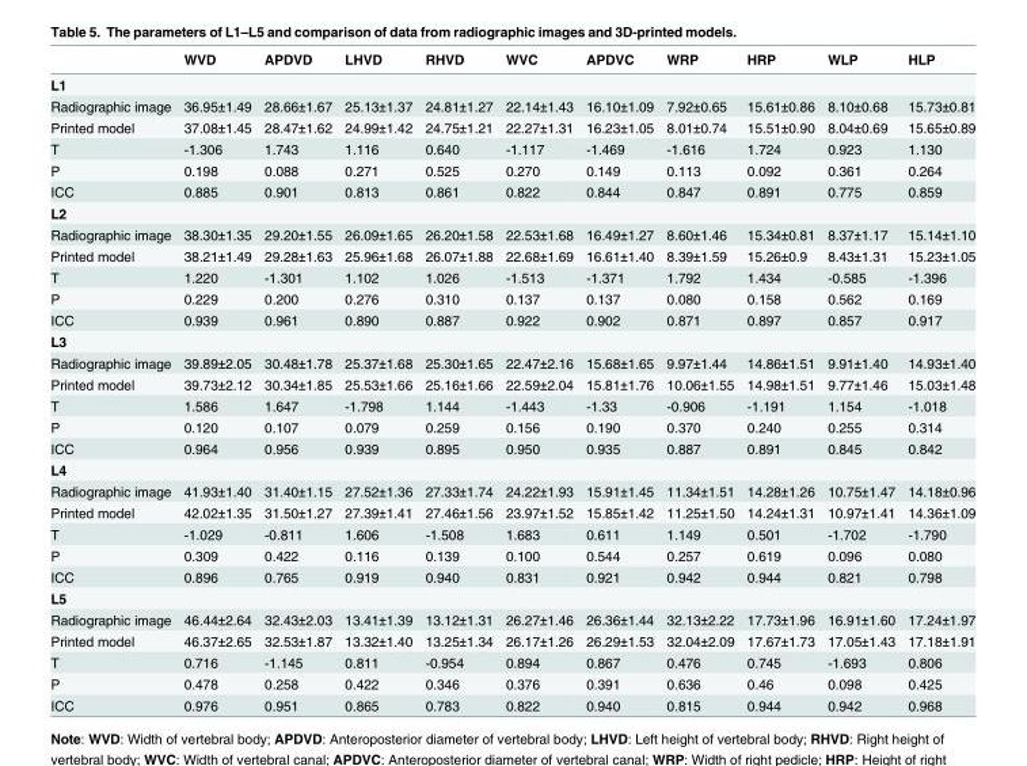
<table><thead><tr><td></td><td>WVD</td><td>APDVD</td><td>LHVD</td><td>RHVD</td><td>WVC</td><td>APDVC</td><td>WRP</td><td>HRP</td><td>WLP</td><td>HLP</td></tr></thead><tbody><tr><td colspan="11">L1</td></tr><tr><td>Radiographic image</td><td>36.95±1.49</td><td>28.66±1.67</td><td>25.13±1.37</td><td>24.81±1.27</td><td>22.14±1.43</td><td>16.10±1.09</td><td>7.92±0.65</td><td>15.61±0.86</td><td>8.10±0.68</td><td>15.73±0.81</td></tr><tr><td>Printed model</td><td>37.08±1.45</td><td>28.47±1.62</td><td>24.99±1.42</td><td>24.75±1.21</td><td>22.27±1.31</td><td>16.23±1.05</td><td>8.01±0.74</td><td>15.51±0.90</td><td>8.04±0.69</td><td>15.65±0.89</td></tr><tr><td>T</td><td>-1.306</td><td>1.743</td><td>1.116</td><td>0.640</td><td>-1.117</td><td>-1.469</td><td>-1.616</td><td>1.724</td><td>0.923</td><td>1.130</td></tr><tr><td>P</td><td>0.198</td><td>0.088</td><td>0.271</td><td>0.525</td><td>0.270</td><td>0.149</td><td>0.113</td><td>0.092</td><td>0.361</td><td>0.264</td></tr><tr><td>ICC</td><td>0.885</td><td>0.901</td><td>0.813</td><td>0.861</td><td>0.822</td><td>0.844</td><td>0.847</td><td>0.891</td><td>0.775</td><td>0.859</td></tr><tr><td colspan="11">L2</td></tr><tr><td>Radiographic image</td><td>38.30±1.35</td><td>29.20±1.55</td><td>26.09±1.65</td><td>26.20±1.58</td><td>22.53±1.68</td><td>16.49±1.27</td><td>8.60±1.46</td><td>15.34±0.81</td><td>8.37±1.17</td><td>15.14±1.10</td></tr><tr><td>Printed model</td><td>38.21±1.49</td><td>29.28±1.63</td><td>25.96±1.68</td><td>26.07±1.88</td><td>22.68±1.69</td><td>16.61±1.40</td><td>8.39±1.59</td><td>15.26±0.9</td><td>8.43±1.31</td><td>15.23±1.05</td></tr><tr><td>T</td><td>1.220</td><td>-1.301</td><td>1.102</td><td>1.026</td><td>-1.513</td><td>-1.371</td><td>1.792</td><td>1.434</td><td>-0.585</td><td>-1.396</td></tr><tr><td>P</td><td>0.229</td><td>0.200</td><td>0.276</td><td>0.310</td><td>0.137</td><td>0.137</td><td>0.080</td><td>0.158</td><td>0.562</td><td>0.169</td></tr><tr><td>ICC</td><td>0.939</td><td>0.961</td><td>0.890</td><td>0.887</td><td>0.922</td><td>0.902</td><td>0.871</td><td>0.897</td><td>0.857</td><td>0.917</td></tr><tr><td colspan="11">L3</td></tr><tr><td>Radiographic image</td><td>39.89±2.05</td><td>30.48±1.78</td><td>25.37±1.68</td><td>25.30±1.65</td><td>22.47±2.16</td><td>15.68±1.65</td><td>9.97±1.44</td><td>14.86±1.51</td><td>9.91±1.40</td><td>14.93±1.40</td></tr><tr><td>Printed model</td><td>39.73±2.12</td><td>30.34±1.85</td><td>25.53±1.66</td><td>25.16±1.66</td><td>22.59±2.04</td><td>15.81±1.76</td><td>10.06±1.55</td><td>14.98±1.51</td><td>9.77±1.46</td><td>15.03±1.48</td></tr><tr><td>T</td><td>1.586</td><td>1.647</td><td>-1.798</td><td>1.144</td><td>-1.443</td><td>-1.33</td><td>-0.906</td><td>-1.191</td><td>1.154</td><td>-1.018</td></tr><tr><td>P</td><td>0.120</td><td>0.107</td><td>0.079</td><td>0.259</td><td>0.156</td><td>0.190</td><td>0.370</td><td>0.240</td><td>0.255</td><td>0.314</td></tr><tr><td>ICC</td><td>0.964</td><td>0.956</td><td>0.939</td><td>0.895</td><td>0.950</td><td>0.935</td><td>0.887</td><td>0.891</td><td>0.845</td><td>0.842</td></tr><tr><td colspan="11">L4</td></tr><tr><td>Radiographic image</td><td>41.93±1.40</td><td>31.40±1.15</td><td>27.52±1.36</td><td>27.33±1.74</td><td>24.22±1.93</td><td>15.91±1.45</td><td>11.34±1.51</td><td>14.28±1.26</td><td>10.75±1.47</td><td>14.18±0.96</td></tr><tr><td>Printed model</td><td>42.02±1.35</td><td>31.50±1.27</td><td>27.39±1.41</td><td>27.46±1.56</td><td>23.97±1.52</td><td>15.85±1.42</td><td>11.25±1.50</td><td>14.24±1.31</td><td>10.97±1.41</td><td>14.36±1.09</td></tr><tr><td>T</td><td>-1.029</td><td>-0.811</td><td>1.606</td><td>-1.508</td><td>1.683</td><td>0.611</td><td>1.149</td><td>0.501</td><td>-1.702</td><td>-1.790</td></tr><tr><td>P</td><td>0.309</td><td>0.422</td><td>0.116</td><td>0.139</td><td>0.100</td><td>0.544</td><td>0.257</td><td>0.619</td><td>0.096</td><td>0.080</td></tr><tr><td>ICC</td><td>0.896</td><td>0.765</td><td>0.919</td><td>0.940</td><td>0.831</td><td>0.921</td><td>0.942</td><td>0.944</td><td>0.821</td><td>0.798</td></tr><tr><td colspan="11">L5</td></tr><tr><td>Radiographic image</td><td>46.44±2.64</td><td>32.43±2.03</td><td>13.41±1.39</td><td>13.12±1.31</td><td>26.27±1.46</td><td>26.36±1.44</td><td>32.13±2.22</td><td>17.73±1.96</td><td>16.91±1.60</td><td>17.24±1.97</td></tr><tr><td>Printed model</td><td>46.37±2.65</td><td>32.53±1.87</td><td>13.32±1.40</td><td>13.25±1.34</td><td>26.17±1.26</td><td>26.29±1.53</td><td>32.04±2.09</td><td>17.67±1.73</td><td>17.05±1.43</td><td>17.18±1.91</td></tr><tr><td>T</td><td>0.716</td><td>-1.145</td><td>0.811</td><td>-0.954</td><td>0.894</td><td>0.867</td><td>0.476</td><td>0.745</td><td>-1.693</td><td>0.806</td></tr><tr><td>P</td><td>0.478</td><td>0.258</td><td>0.422</td><td>0.346</td><td>0.376</td><td>0.391</td><td>0.636</td><td>0.46</td><td>0.098</td><td>0.425</td></tr><tr><td>ICC</td><td>0.976</td><td>0.951</td><td>0.865</td><td>0.783</td><td>0.822</td><td>0.940</td><td>0.815</td><td>0.944</td><td>0.942</td><td>0.968</td></tr></tbody></table>